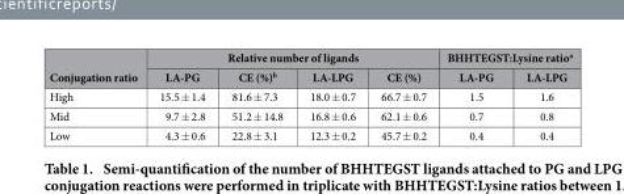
<table><thead><tr><td rowspan="2">Conjugation ratio</td><td colspan="4">Relative number of ligands</td><td colspan="2">BHHTEGST:Lysine ratio<sup>a</sup></td></tr><tr><td>LA-PG</td><td>CE (%)<sup>b</sup></td><td>LA-LPG</td><td>CE (%)</td><td>LA-PG</td><td>LA-LPG</td></tr></thead><tbody><tr><td>High</td><td>15.5 ± 1.4</td><td>81.6 ± 7.3</td><td>18.0 ± 0.7</td><td>66.7 ± 0.7</td><td>1.5</td><td>1.6</td></tr><tr><td>Mid</td><td>9.7 ± 2.8</td><td>51.2 ± 14.8</td><td>16.8 ± 0.6</td><td>62.1 ± 0.6</td><td>0.7</td><td>0.8</td></tr><tr><td>Low</td><td>4.3 ± 0.6</td><td>22.8 ± 3.1</td><td>12.3 ± 0.2</td><td>45.7 ± 0.2</td><td>0.4</td><td>0.4</td></tr></tbody></table>